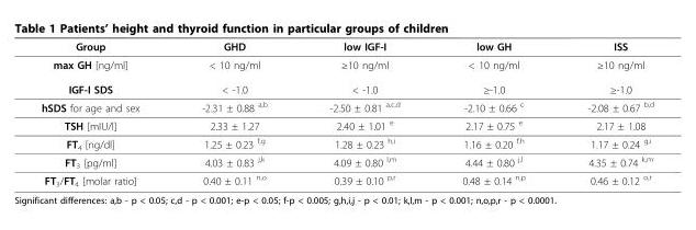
<table><thead><tr><td>Group</td><td>GHD</td><td>low IGF-I</td><td>low GH</td><td>ISS</td></tr></thead><tbody><tr><td>max GH [ng/ml] IGF-I SDS</td><td>&lt; 10 ng/ml &lt; -1.0</td><td>≥10 ng/ml &lt; -1.0</td><td>&lt; 10 ng/ml ≥-1.0</td><td>≥10 ng/ml ≥-1.0</td></tr><tr><td>hSDS for age and sex</td><td>-2.31 ± 0.88 <sup>a,b</sup></td><td>-2.50 ± 0.81 <sup>a,c,d</sup></td><td>-2.10 ± 0.66 <sup>c</sup></td><td>-2.08 ± 0.67 <sup>b,d</sup></td></tr><tr><td>TSH [mIU/l]</td><td>2.33 ± 1.27</td><td>2.40 ± 1.01 <sup>e</sup></td><td>2.17 ± 0.75 <sup>e</sup></td><td>2.17 ± 1.08</td></tr><tr><td>FT<sub>4</sub> [ng/dl]</td><td>1.25 ± 0.23 <sup>f,g</sup></td><td>1.28 ± 0.23 <sup>h,i</sup></td><td>1.16 ± 0.20 <sup>f,h</sup></td><td>1.17 ± 0.24 <sup>g,i</sup></td></tr><tr><td>FT<sub>3</sub> [pg/ml]</td><td>4.03 ± 0.83 <sup>j,k</sup></td><td>4.09 ± 0.80 <sup>l,m</sup></td><td>4.44 ± 0.80 <sup>j,l</sup></td><td>4.35 ± 0.74 <sup>k,m</sup></td></tr><tr><td>FT<sub>3</sub>/FT<sub>4</sub> [molar ratio]</td><td>0.40 ± 0.11 <sup>n,o</sup></td><td>0.39 ± 0.10 <sup>p,r</sup></td><td>0.48 ± 0.14 <sup>n,p</sup></td><td>0.46 ± 0.12 <sup>o,r</sup></td></tr></tbody></table>